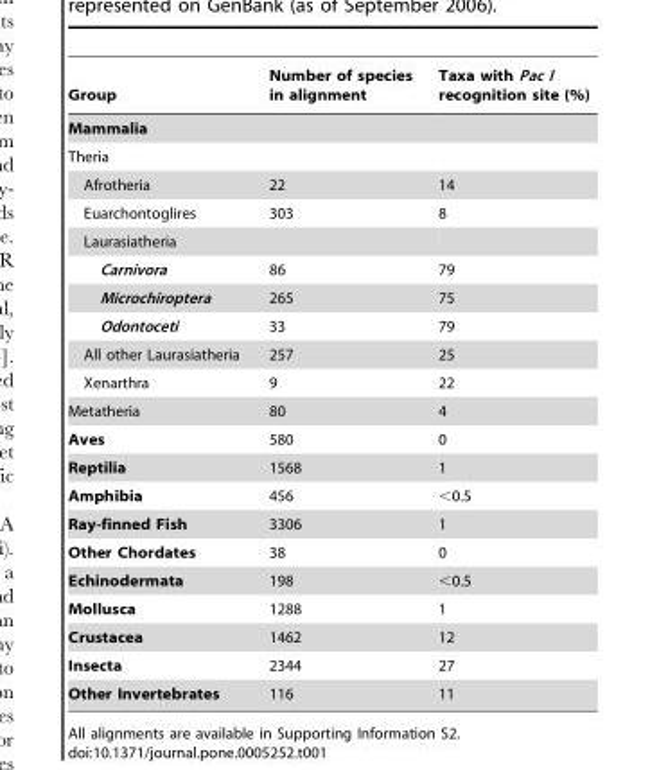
<table><thead><tr><td>Group</td><td>Number of species in alignment</td><td>Taxa with Pac I recognition site (%)</td></tr></thead><tbody><tr><td colspan="3">Mammalia</td></tr><tr><td colspan="3">Theria</td></tr><tr><td>Afrotheria</td><td>22</td><td>14</td></tr><tr><td>Euarchontoglires</td><td>303</td><td>8</td></tr><tr><td colspan="3">Laurasiatheria</td></tr><tr><td>Carnivora</td><td>86</td><td>79</td></tr><tr><td>Microchiroptera</td><td>265</td><td>75</td></tr><tr><td>Odontoceti</td><td>33</td><td>79</td></tr><tr><td>All other Laurasiatheria</td><td>257</td><td>25</td></tr><tr><td>Xenarthra</td><td>9</td><td>22</td></tr><tr><td>Metatheria</td><td>80</td><td>4</td></tr><tr><td>Aves</td><td>580</td><td>0</td></tr><tr><td>Reptilia</td><td>1568</td><td>1</td></tr><tr><td>Amphibia</td><td>456</td><td>&lt;0.5</td></tr><tr><td>Ray-finned Fish</td><td>3306</td><td>1</td></tr><tr><td>Other Chordates</td><td>38</td><td>0</td></tr><tr><td>Echinodermata</td><td>198</td><td>&lt;0.5</td></tr><tr><td>Mollusca</td><td>1288</td><td>1</td></tr><tr><td>Crustacea</td><td>1462</td><td>12</td></tr><tr><td>Insecta</td><td>2344</td><td>27</td></tr><tr><td>Other Invertebrates</td><td>116</td><td>11</td></tr></tbody></table>